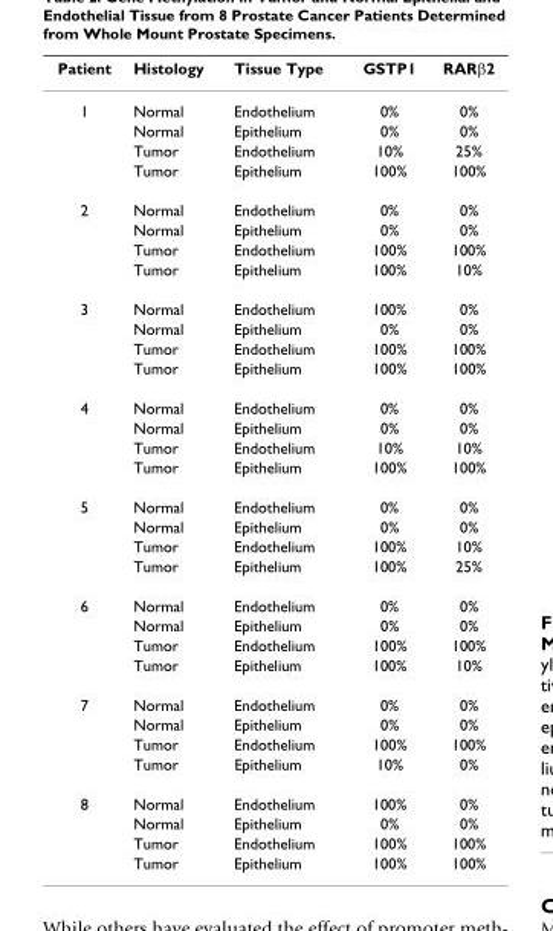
<table><thead><tr><td>Patient</td><td>Histology</td><td>Tissue Type</td><td>GSTP1</td><td>RARβ2</td></tr></thead><tbody><tr><td rowspan="4">1</td><td>Normal</td><td>Endothelium</td><td>0%</td><td>0%</td></tr><tr><td>Normal</td><td>Epithelium</td><td>0%</td><td>0%</td></tr><tr><td>Tumor</td><td>Endothelium</td><td>10%</td><td>25%</td></tr><tr><td>Tumor</td><td>Epithelium</td><td>100%</td><td>100%</td></tr><tr><td rowspan="4">2</td><td>Normal</td><td>Endothelium</td><td>0%</td><td>0%</td></tr><tr><td>Normal</td><td>Epithelium</td><td>0%</td><td>0%</td></tr><tr><td>Tumor</td><td>Endothelium</td><td>100%</td><td>100%</td></tr><tr><td>Tumor</td><td>Epithelium</td><td>100%</td><td>10%</td></tr><tr><td rowspan="4">3</td><td>Normal</td><td>Endothelium</td><td>100%</td><td>0%</td></tr><tr><td>Normal</td><td>Epithelium</td><td>0%</td><td>0%</td></tr><tr><td>Tumor</td><td>Endothelium</td><td>100%</td><td>100%</td></tr><tr><td>Tumor</td><td>Epithelium</td><td>100%</td><td>100%</td></tr><tr><td rowspan="4">4</td><td>Normal</td><td>Endothelium</td><td>0%</td><td>0%</td></tr><tr><td>Normal</td><td>Epithelium</td><td>0%</td><td>0%</td></tr><tr><td>Tumor</td><td>Endothelium</td><td>10%</td><td>10%</td></tr><tr><td>Tumor</td><td>Epithelium</td><td>100%</td><td>100%</td></tr><tr><td rowspan="4">5</td><td>Normal</td><td>Endothelium</td><td>0%</td><td>0%</td></tr><tr><td>Normal</td><td>Epithelium</td><td>0%</td><td>0%</td></tr><tr><td>Tumor</td><td>Endothelium</td><td>100%</td><td>10%</td></tr><tr><td>Tumor</td><td>Epithelium</td><td>100%</td><td>25%</td></tr><tr><td rowspan="4">6</td><td>Normal</td><td>Endothelium</td><td>0%</td><td>0%</td></tr><tr><td>Normal</td><td>Epithelium</td><td>0%</td><td>0%</td></tr><tr><td>Tumor</td><td>Endothelium</td><td>100%</td><td>100%</td></tr><tr><td>Tumor</td><td>Epithelium</td><td>100%</td><td>10%</td></tr><tr><td rowspan="4">7</td><td>Normal</td><td>Endothelium</td><td>0%</td><td>0%</td></tr><tr><td>Normal</td><td>Epithelium</td><td>0%</td><td>0%</td></tr><tr><td>Tumor</td><td>Endothelium</td><td>100%</td><td>100%</td></tr><tr><td>Tumor</td><td>Epithelium</td><td>10%</td><td>0%</td></tr><tr><td rowspan="4">8</td><td>Normal</td><td>Endothelium</td><td>100%</td><td>0%</td></tr><tr><td>Normal</td><td>Epithelium</td><td>0%</td><td>0%</td></tr><tr><td>Tumor</td><td>Endothelium</td><td>100%</td><td>100%</td></tr><tr><td>Tumor</td><td>Epithelium</td><td>100%</td><td>100%</td></tr></tbody></table>